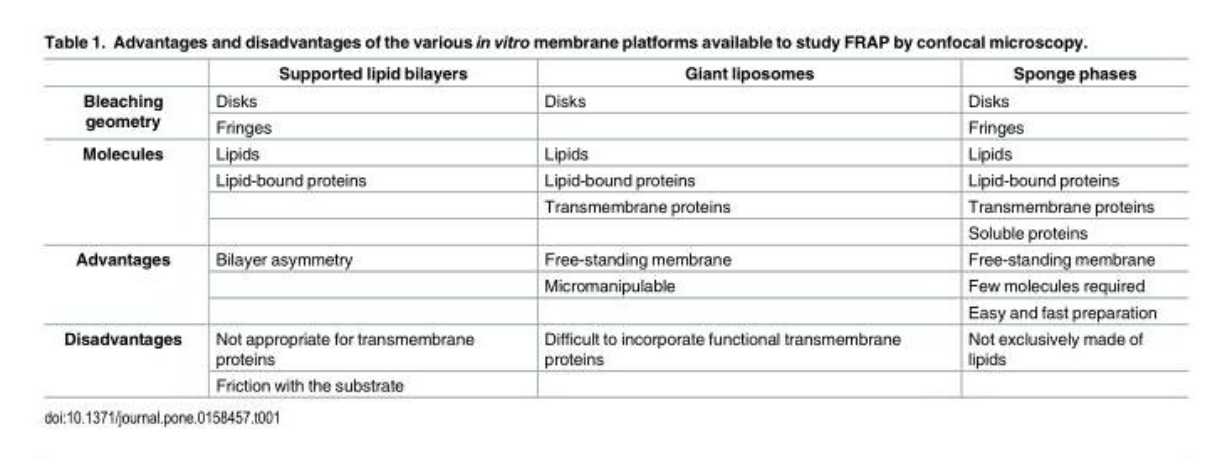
<table><thead><tr><td></td><td>Supported lipid bilayers</td><td>Giant liposomes</td><td>Sponge phases</td></tr></thead><tbody><tr><td rowspan="2">Bleaching geometry</td><td>Disks</td><td>Disks</td><td>Disks</td></tr><tr><td>Fringes</td><td></td><td>Fringes</td></tr><tr><td rowspan="4">Molecules</td><td>Lipids</td><td>Lipids</td><td>Lipids</td></tr><tr><td>Lipid-bound proteins</td><td>Lipid-bound proteins</td><td>Lipid-bound proteins</td></tr><tr><td></td><td>Transmembrane proteins</td><td>Transmembrane proteins</td></tr><tr><td></td><td></td><td>Soluble proteins</td></tr><tr><td rowspan="3">Advantages</td><td>Bilayer asymmetry</td><td>Free-standing membrane</td><td>Free-standing membrane</td></tr><tr><td></td><td>Micromanipulable</td><td>Few molecules required</td></tr><tr><td></td><td></td><td>Easy and fast preparation</td></tr><tr><td rowspan="2">Disadvantages</td><td>Not appropriate for transmembrane proteins</td><td>Difficult to incorporate functional transmembrane proteins</td><td>Not exclusively made of lipids</td></tr><tr><td>Friction with the substrate</td><td></td><td></td></tr></tbody></table>